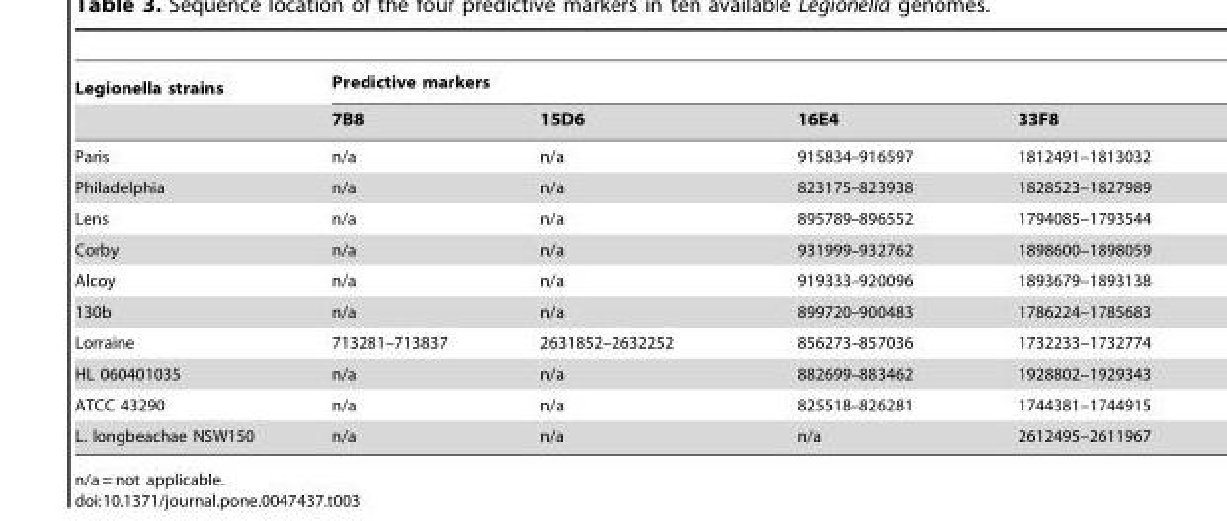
<table><thead><tr><td rowspan="2">Legionella strains</td><td colspan="4">Predictive markers</td></tr><tr><td>7B8</td><td>15D6</td><td>16E4</td><td>33F8</td></tr></thead><tbody><tr><td>Paris</td><td>n/a</td><td>n/a</td><td>915834–916597</td><td>1812491–1813032</td></tr><tr><td>Philadelphia</td><td>n/a</td><td>n/a</td><td>823175–823938</td><td>1828523–1827989</td></tr><tr><td>Lens</td><td>n/a</td><td>n/a</td><td>895789–896552</td><td>1794085–1793544</td></tr><tr><td>Corby</td><td>n/a</td><td>n/a</td><td>931999–932762</td><td>1898600–1898059</td></tr><tr><td>Alcoy</td><td>n/a</td><td>n/a</td><td>919333–920096</td><td>1893679–1893138</td></tr><tr><td>130b</td><td>n/a</td><td>n/a</td><td>899720–900483</td><td>1786224–1785683</td></tr><tr><td>Lorraine</td><td>713281–713837</td><td>2631852–2632252</td><td>856273–857036</td><td>1732233–1732774</td></tr><tr><td>HL 060401035</td><td>n/a</td><td>n/a</td><td>882699–883462</td><td>1928802–1929343</td></tr><tr><td>ATCC 43290</td><td>n/a</td><td>n/a</td><td>825518–826281</td><td>1744381–1744915</td></tr><tr><td>L. longbeachae NSW150</td><td>n/a</td><td>n/a</td><td>n/a</td><td>2612495–2611967</td></tr></tbody></table>